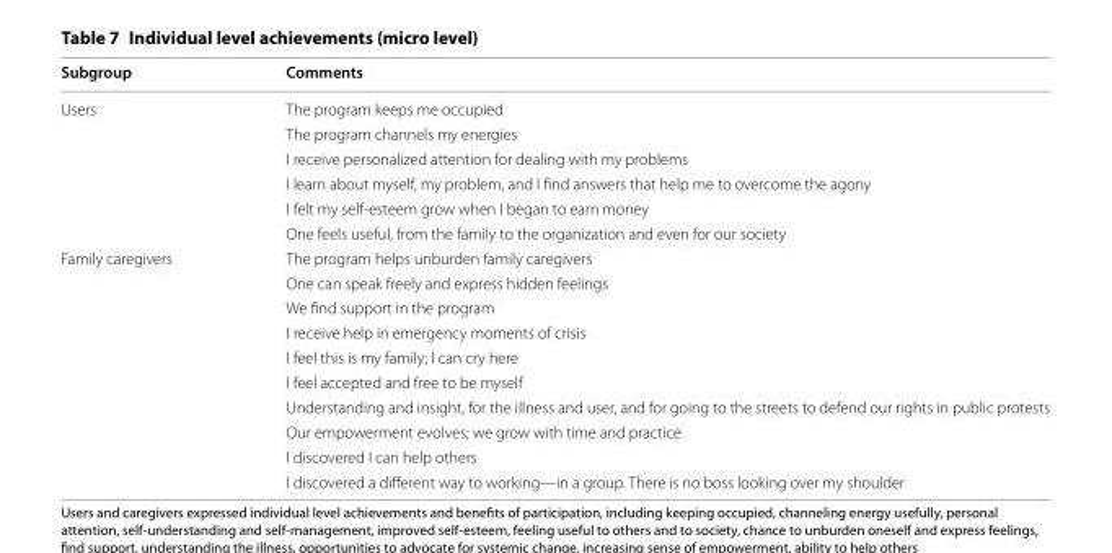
<table><thead><tr><td>Subgroup</td><td>Comments</td></tr></thead><tbody><tr><td rowspan="6">Users</td><td>The program keeps me occupied</td></tr><tr><td>The program channels my energies</td></tr><tr><td>I receive personalized attention for dealing with my problems</td></tr><tr><td>I learn about myself, my problem, and I find answers that help me to overcome the agony</td></tr><tr><td>I felt my self-esteem grow when I began to earn money</td></tr><tr><td>One feels useful, from the family to the organization and even for our society</td></tr><tr><td rowspan="10">Family caregivers</td><td>The program helps unburden family caregivers</td></tr><tr><td>One can speak freely and express hidden feelings</td></tr><tr><td>We find support in the program</td></tr><tr><td>I receive help in emergency moments of crisis</td></tr><tr><td>I feel this is my family; I can cry here</td></tr><tr><td>I feel accepted and free to be myself</td></tr><tr><td>Understanding and insight, for the illness and user, and for going to the streets to defend our rights in public protests</td></tr><tr><td>Our empowerment evolves; we grow with time and practice</td></tr><tr><td>I discovered I can help others</td></tr><tr><td>I discovered a different way to working—in a group. There is no boss looking over my shoulder</td></tr></tbody></table>